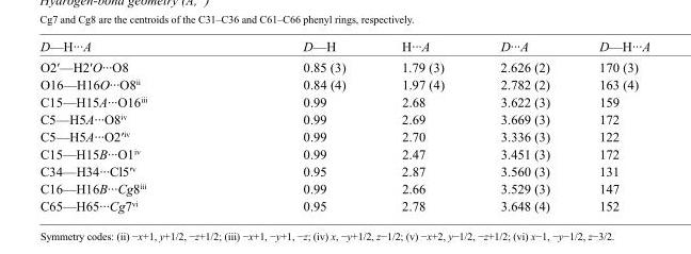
<table><tbody><tr><td>D—H···A</td><td>D—H</td><td>H···A</td><td>D···A</td><td>D—H···A</td></tr><tr><td>O2′—H2′O···O8</td><td>0.85 (3)</td><td>1.79 (3)</td><td>2.626 (2)</td><td>170 (3)</td></tr><tr><td>O16—H16O···O8<sup>ii</sup></td><td>0.84 (4)</td><td>1.97 (4)</td><td>2.782 (2)</td><td>163 (4)</td></tr><tr><td>C15—H15A···O16<sup>iii</sup></td><td>0.99</td><td>2.68</td><td>3.622 (3)</td><td>159</td></tr><tr><td>C5—H5A···O8<sup>iv</sup></td><td>0.99</td><td>2.69</td><td>3.669 (3)</td><td>172</td></tr><tr><td>C5—H5A···O2′<sup>iv</sup></td><td>0.99</td><td>2.70</td><td>3.336 (3)</td><td>122</td></tr><tr><td>C15—H15B···O1<sup>iv</sup></td><td>0.99</td><td>2.47</td><td>3.451 (3)</td><td>172</td></tr><tr><td>C34—H34···Cl5′<sup>v</sup></td><td>0.95</td><td>2.87</td><td>3.560 (3)</td><td>131</td></tr><tr><td>C16—H16B···Cg8<sup>iii</sup></td><td>0.99</td><td>2.66</td><td>3.529 (3)</td><td>147</td></tr><tr><td>C65—H65···Cg7<sup>vi</sup></td><td>0.95</td><td>2.78</td><td>3.648 (4)</td><td>152</td></tr></tbody></table>